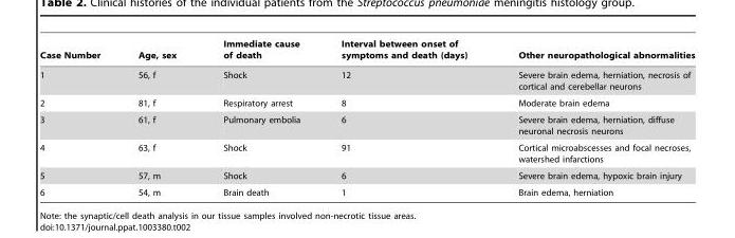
<table><thead><tr><td>Case Number</td><td>Age, sex</td><td>Immediate cause of death</td><td>Interval between onset of symptoms and death (days)</td><td>Other neuropathological abnormalities</td></tr></thead><tbody><tr><td>1</td><td>56, f</td><td>Shock</td><td>12</td><td>Severe brain edema, herniation, necrosis of cortical and cerebellar neurons</td></tr><tr><td>2</td><td>81, f</td><td>Respiratory arrest</td><td>8</td><td>Moderate brain edema</td></tr><tr><td>3</td><td>61, f</td><td>Pulmonary embolia</td><td>6</td><td>Severe brain edema, herniation, diffuse neuronal necrosis neurons</td></tr><tr><td>4</td><td>63, f</td><td>Shock</td><td>91</td><td>Cortical microabscesses and focal necroses, watershed infarctions</td></tr><tr><td>5</td><td>57, m</td><td>Shock</td><td>6</td><td>Severe brain edema, hypoxic brain injury</td></tr><tr><td>6</td><td>54, m</td><td>Brain death</td><td>1</td><td>Brain edema, herniation</td></tr></tbody></table>